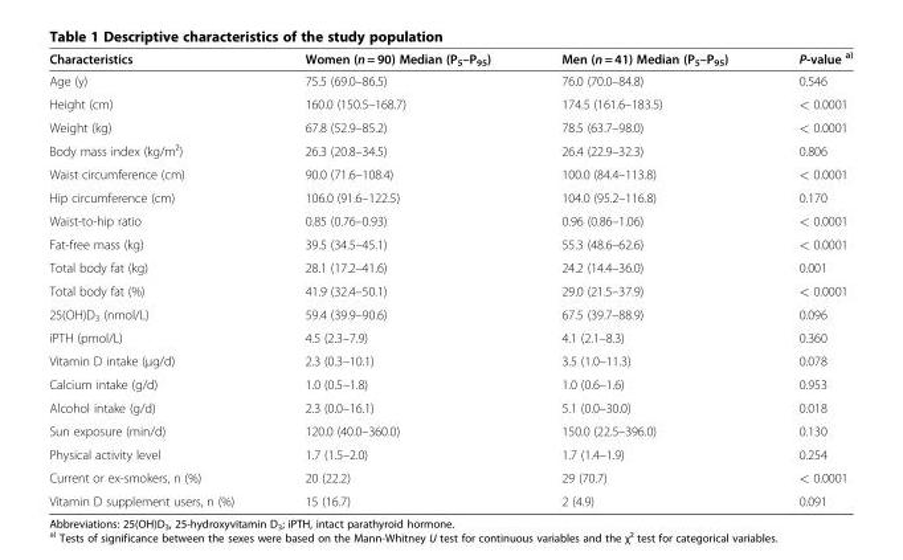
<table><thead><tr><td>Characteristics</td><td>Women (n = 90) Median (P<sub>5</sub>–P<sub>95</sub>)</td><td>Men (n = 41) Median (P<sub>5</sub>–P<sub>95</sub>)</td><td>P-value <sup>a)</sup></td></tr></thead><tbody><tr><td>Age (y)</td><td>75.5 (69.0–86.5)</td><td>76.0 (70.0–84.8)</td><td>0.546</td></tr><tr><td>Height (cm)</td><td>160.0 (150.5–168.7)</td><td>174.5 (161.6–183.5)</td><td>&lt; 0.0001</td></tr><tr><td>Weight (kg)</td><td>67.8 (52.9–85.2)</td><td>78.5 (63.7–98.0)</td><td>&lt; 0.0001</td></tr><tr><td>Body mass index (kg/m²)</td><td>26.3 (20.8–34.5)</td><td>26.4 (22.9–32.3)</td><td>0.806</td></tr><tr><td>Waist circumference (cm)</td><td>90.0 (71.6–108.4)</td><td>100.0 (84.4–113.8)</td><td>&lt; 0.0001</td></tr><tr><td>Hip circumference (cm)</td><td>106.0 (91.6–122.5)</td><td>104.0 (95.2–116.8)</td><td>0.170</td></tr><tr><td>Waist-to-hip ratio</td><td>0.85 (0.76–0.93)</td><td>0.96 (0.86–1.06)</td><td>&lt; 0.0001</td></tr><tr><td>Fat-free mass (kg)</td><td>39.5 (34.5–45.1)</td><td>55.3 (48.6–62.6)</td><td>&lt; 0.0001</td></tr><tr><td>Total body fat (kg)</td><td>28.1 (17.2–41.6)</td><td>24.2 (14.4–36.0)</td><td>0.001</td></tr><tr><td>Total body fat (%)</td><td>41.9 (32.4–50.1)</td><td>29.0 (21.5–37.9)</td><td>&lt; 0.0001</td></tr><tr><td>25(OH)D<sub>3</sub> (nmol/L)</td><td>59.4 (39.9–90.6)</td><td>67.5 (39.7–88.9)</td><td>0.096</td></tr><tr><td>iPTH (pmol/L)</td><td>4.5 (2.3–7.9)</td><td>4.1 (2.1–8.3)</td><td>0.360</td></tr><tr><td>Vitamin D intake (μg/d)</td><td>2.3 (0.3–10.1)</td><td>3.5 (1.0–11.3)</td><td>0.078</td></tr><tr><td>Calcium intake (g/d)</td><td>1.0 (0.5–1.8)</td><td>1.0 (0.6–1.6)</td><td>0.953</td></tr><tr><td>Alcohol intake (g/d)</td><td>2.3 (0.0–16.1)</td><td>5.1 (0.0–30.0)</td><td>0.018</td></tr><tr><td>Sun exposure (min/d)</td><td>120.0 (40.0–360.0)</td><td>150.0 (22.5–396.0)</td><td>0.130</td></tr><tr><td>Physical activity level</td><td>1.7 (1.5–2.0)</td><td>1.7 (1.4–1.9)</td><td>0.254</td></tr><tr><td>Current or ex-smokers, n (%)</td><td>20 (22.2)</td><td>29 (70.7)</td><td>&lt; 0.0001</td></tr><tr><td>Vitamin D supplement users, n (%)</td><td>15 (16.7)</td><td>2 (4.9)</td><td>0.091</td></tr></tbody></table>